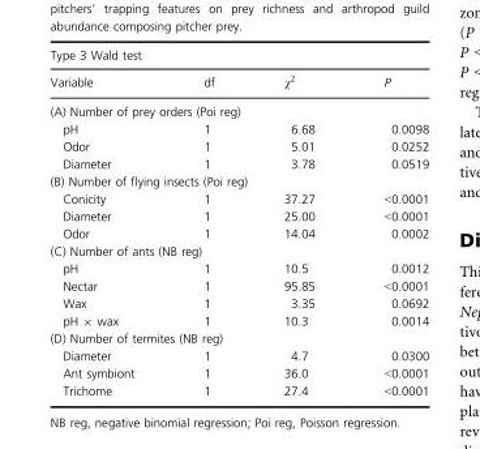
<table><thead><tr><td colspan="4">Type 3 Wald test</td></tr><tr><td>Variable</td><td>df</td><td>χ<sup>2</sup></td><td>P</td></tr></thead><tbody><tr><td colspan="4">(A) Number of prey orders (Poi reg)</td></tr><tr><td>pH</td><td>1</td><td>6.68</td><td>0.0098</td></tr><tr><td>Odor</td><td>1</td><td>5.01</td><td>0.0252</td></tr><tr><td>Diameter</td><td>1</td><td>3.78</td><td>0.0519</td></tr><tr><td colspan="4">(B) Number of flying insects (Poi reg)</td></tr><tr><td>Conicity</td><td>1</td><td>37.27</td><td>&lt;0.0001</td></tr><tr><td>Diameter</td><td>1</td><td>25.00</td><td>&lt;0.0001</td></tr><tr><td>Odor</td><td>1</td><td>14.04</td><td>0.0002</td></tr><tr><td colspan="4">(C) Number of ants (NB reg)</td></tr><tr><td>pH</td><td>1</td><td>10.5</td><td>0.0012</td></tr><tr><td>Nectar</td><td>1</td><td>95.85</td><td>&lt;0.0001</td></tr><tr><td>Wax</td><td>1</td><td>3.35</td><td>0.0692</td></tr><tr><td>pH × wax</td><td>1</td><td>10.3</td><td>0.0014</td></tr><tr><td colspan="4">(D) Number of termites (NB reg)</td></tr><tr><td>Diameter</td><td>1</td><td>4.7</td><td>0.0300</td></tr><tr><td>Ant symbiont</td><td>1</td><td>36.0</td><td>&lt;0.0001</td></tr><tr><td>Trichome</td><td>1</td><td>27.4</td><td>&lt;0.0001</td></tr></tbody></table>